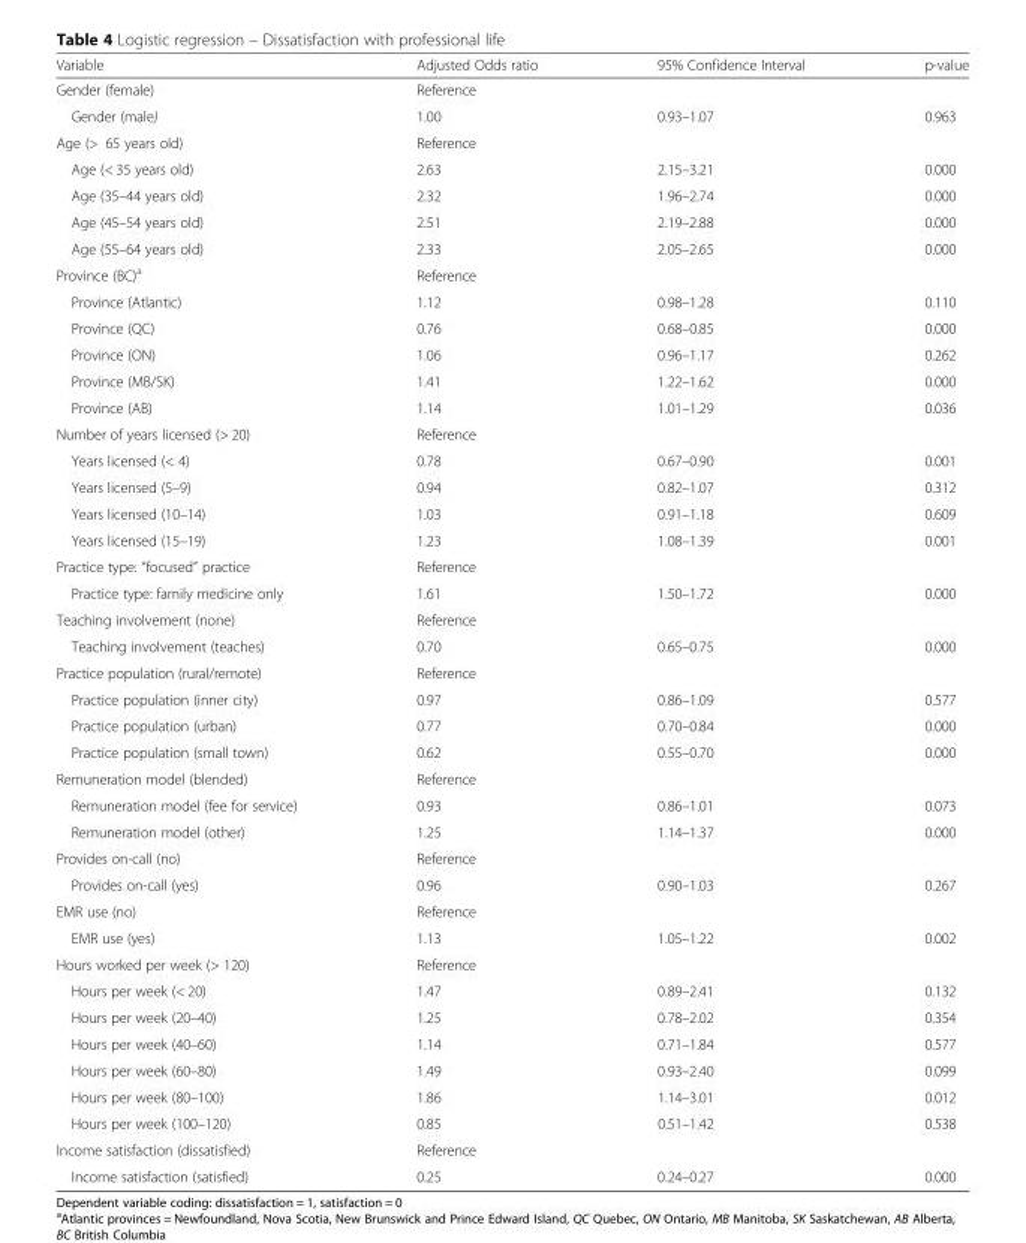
<table><thead><tr><td>Variable</td><td>Adjusted Odds ratio</td><td>95% Confidence Interval</td><td>p-value</td></tr></thead><tbody><tr><td>Gender (female)</td><td>Reference</td><td></td><td></td></tr><tr><td>Gender (male)</td><td>1.00</td><td>0.93–1.07</td><td>0.963</td></tr><tr><td>Age (&gt; 65 years old)</td><td>Reference</td><td></td><td></td></tr><tr><td>Age (&lt; 35 years old)</td><td>2.63</td><td>2.15–3.21</td><td>0.000</td></tr><tr><td>Age (35–44 years old)</td><td>2.32</td><td>1.96–2.74</td><td>0.000</td></tr><tr><td>Age (45–54 years old)</td><td>2.51</td><td>2.19–2.88</td><td>0.000</td></tr><tr><td>Age (55–64 years old)</td><td>2.33</td><td>2.05–2.65</td><td>0.000</td></tr><tr><td>Province (BC)<sup>a</sup></td><td>Reference</td><td></td><td></td></tr><tr><td>Province (Atlantic)</td><td>1.12</td><td>0.98–1.28</td><td>0.110</td></tr><tr><td>Province (QC)</td><td>0.76</td><td>0.68–0.85</td><td>0.000</td></tr><tr><td>Province (ON)</td><td>1.06</td><td>0.96–1.17</td><td>0.262</td></tr><tr><td>Province (MB/SK)</td><td>1.41</td><td>1.22–1.62</td><td>0.000</td></tr><tr><td>Province (AB)</td><td>1.14</td><td>1.01–1.29</td><td>0.036</td></tr><tr><td>Number of years licensed (&gt; 20)</td><td>Reference</td><td></td><td></td></tr><tr><td>Years licensed (&lt; 4)</td><td>0.78</td><td>0.67–0.90</td><td>0.001</td></tr><tr><td>Years licensed (5–9)</td><td>0.94</td><td>0.82–1.07</td><td>0.312</td></tr><tr><td>Years licensed (10–14)</td><td>1.03</td><td>0.91–1.18</td><td>0.609</td></tr><tr><td>Years licensed (15–19)</td><td>1.23</td><td>1.08–1.39</td><td>0.001</td></tr><tr><td>Practice type: “focused” practice</td><td>Reference</td><td></td><td></td></tr><tr><td>Practice type: family medicine only</td><td>1.61</td><td>1.50–1.72</td><td>0.000</td></tr><tr><td>Teaching involvement (none)</td><td>Reference</td><td></td><td></td></tr><tr><td>Teaching involvement (teaches)</td><td>0.70</td><td>0.65–0.75</td><td>0.000</td></tr><tr><td>Practice population (rural/remote)</td><td>Reference</td><td></td><td></td></tr><tr><td>Practice population (inner city)</td><td>0.97</td><td>0.86–1.09</td><td>0.577</td></tr><tr><td>Practice population (urban)</td><td>0.77</td><td>0.70–0.84</td><td>0.000</td></tr><tr><td>Practice population (small town)</td><td>0.62</td><td>0.55–0.70</td><td>0.000</td></tr><tr><td>Remuneration model (blended)</td><td>Reference</td><td></td><td></td></tr><tr><td>Remuneration model (fee for service)</td><td>0.93</td><td>0.86–1.01</td><td>0.073</td></tr><tr><td>Remuneration model (other)</td><td>1.25</td><td>1.14–1.37</td><td>0.000</td></tr><tr><td>Provides on-call (no)</td><td>Reference</td><td></td><td></td></tr><tr><td>Provides on-call (yes)</td><td>0.96</td><td>0.90–1.03</td><td>0.267</td></tr><tr><td>EMR use (no)</td><td>Reference</td><td></td><td></td></tr><tr><td>EMR use (yes)</td><td>1.13</td><td>1.05–1.22</td><td>0.002</td></tr><tr><td>Hours worked per week (&gt; 120)</td><td>Reference</td><td></td><td></td></tr><tr><td>Hours per week (&lt; 20)</td><td>1.47</td><td>0.89–2.41</td><td>0.132</td></tr><tr><td>Hours per week (20–40)</td><td>1.25</td><td>0.78–2.02</td><td>0.354</td></tr><tr><td>Hours per week (40–60)</td><td>1.14</td><td>0.71–1.84</td><td>0.577</td></tr><tr><td>Hours per week (60–80)</td><td>1.49</td><td>0.93–2.40</td><td>0.099</td></tr><tr><td>Hours per week (80–100)</td><td>1.86</td><td>1.14–3.01</td><td>0.012</td></tr><tr><td>Hours per week (100–120)</td><td>0.85</td><td>0.51–1.42</td><td>0.538</td></tr><tr><td>Income satisfaction (dissatisfied)</td><td>Reference</td><td></td><td></td></tr><tr><td>Income satisfaction (satisfied)</td><td>0.25</td><td>0.24–0.27</td><td>0.000</td></tr></tbody></table>